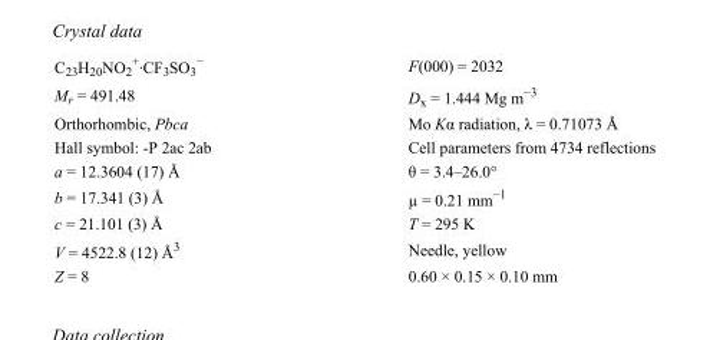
<table><tbody><tr><td>C<sub>23</sub>H<sub>20</sub>NO<sub>2</sub> <sup>+</sup>·CF<sub>3</sub>SO<sub>3</sub> <sup>−</sup></td><td>F(000) = 2032</td></tr><tr><td>M<sub>r</sub> = 491.48</td><td>D<sub>x</sub> = 1.444 Mg m<sup>−3</sup></td></tr><tr><td>Orthorhombic, Pbca</td><td>Mo Kα radiation, λ = 0.71073 Å</td></tr><tr><td>Hall symbol: -P 2ac 2ab</td><td>Cell parameters from 4734 reflections</td></tr><tr><td>a = 12.3604 (17) Å</td><td>θ = 3.4–26.0°</td></tr><tr><td>b = 17.341 (3) Å</td><td>µ = 0.21 mm<sup>−1</sup></td></tr><tr><td>c = 21.101 (3) Å</td><td>T = 295 K</td></tr><tr><td>V = 4522.8 (12) Å<sup>3</sup></td><td>Needle, yellow</td></tr><tr><td>Z = 8</td><td>0.60 × 0.15 × 0.10 mm</td></tr></tbody></table>